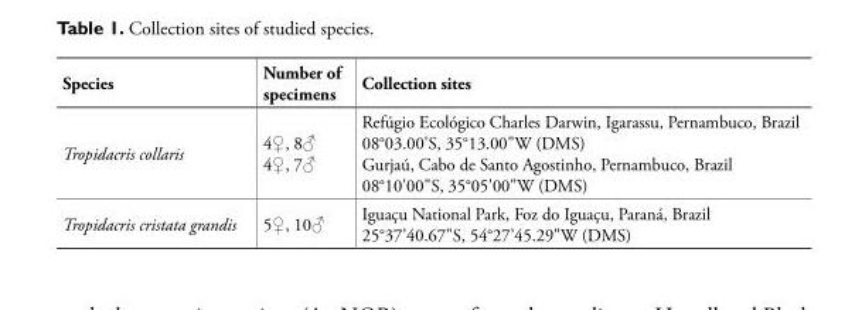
<table><thead><tr><td>Species</td><td>Number of specimens</td><td>Collection sites</td></tr></thead><tbody><tr><td>Tropidacris collaris</td><td>4♀, 8♂ 4♀, 7♂</td><td>Refúgio Ecológico Charles Darwin, Igarassu, Pernambuco, Brazil 08°03.00&#x27;S, 35°13.00&quot;W (DMS) Gurjaú, Cabo de Santo Agostinho, Pernambuco, Brazil 08°10&#x27;00&quot;S, 35°05&#x27;00&quot;W (DMS)</td></tr><tr><td>Tropidacris cristata grandis</td><td>5♀, 10♂</td><td>Iguaçu National Park, Foz do Iguaçu, Paraná, Brazil 25°37’40.67&quot;S, 54°27’45.29&quot;W (DMS)</td></tr></tbody></table>